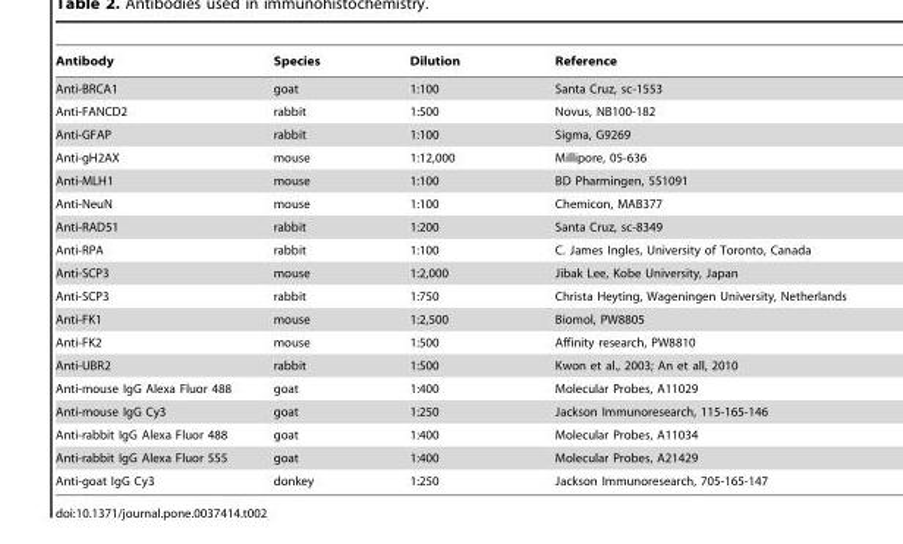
<table><thead><tr><td>Antibody</td><td>Species</td><td>Dilution</td><td>Reference</td></tr></thead><tbody><tr><td>Anti-BRCA1</td><td>goat</td><td>1:100</td><td>Santa Cruz, sc-1553</td></tr><tr><td>Anti-FANCD2</td><td>rabbit</td><td>1:500</td><td>Novus, NB100-182</td></tr><tr><td>Anti-GFAP</td><td>rabbit</td><td>1:100</td><td>Sigma, G9269</td></tr><tr><td>Anti-gH2AX</td><td>mouse</td><td>1:12,000</td><td>Millipore, 05-636</td></tr><tr><td>Anti-MLH1</td><td>mouse</td><td>1:100</td><td>BD Pharmingen, 551091</td></tr><tr><td>Anti-NeuN</td><td>mouse</td><td>1:100</td><td>Chemicon, MAB377</td></tr><tr><td>Anti-RAD51</td><td>rabbit</td><td>1:200</td><td>Santa Cruz, sc-8349</td></tr><tr><td>Anti-RPA</td><td>rabbit</td><td>1:100</td><td>C. James Ingles, University of Toronto, Canada</td></tr><tr><td>Anti-SCP3</td><td>mouse</td><td>1:2,000</td><td>Jibak Lee, Kobe University, Japan</td></tr><tr><td>Anti-SCP3</td><td>rabbit</td><td>1:750</td><td>Christa Heyting, Wageningen University, Netherlands</td></tr><tr><td>Anti-FK1</td><td>mouse</td><td>1:2,500</td><td>Biomol, PW8805</td></tr><tr><td>Anti-FK2</td><td>mouse</td><td>1:500</td><td>Affinity research, PW8810</td></tr><tr><td>Anti-UBR2</td><td>rabbit</td><td>1:500</td><td>Kwon et al., 2003; An et all, 2010</td></tr><tr><td>Anti-mouse IgG Alexa Fluor 488</td><td>goat</td><td>1:400</td><td>Molecular Probes, A11029</td></tr><tr><td>Anti-mouse IgG Cy3</td><td>goat</td><td>1:250</td><td>Jackson Immunoresearch, 115-165-146</td></tr><tr><td>Anti-rabbit IgG Alexa Fluor 488</td><td>goat</td><td>1:400</td><td>Molecular Probes, A11034</td></tr><tr><td>Anti-rabbit IgG Alexa Fluor 555</td><td>goat</td><td>1:400</td><td>Molecular Probes, A21429</td></tr><tr><td>Anti-goat IgG Cy3</td><td>donkey</td><td>1:250</td><td>Jackson Immunoresearch, 705-165-147</td></tr></tbody></table>